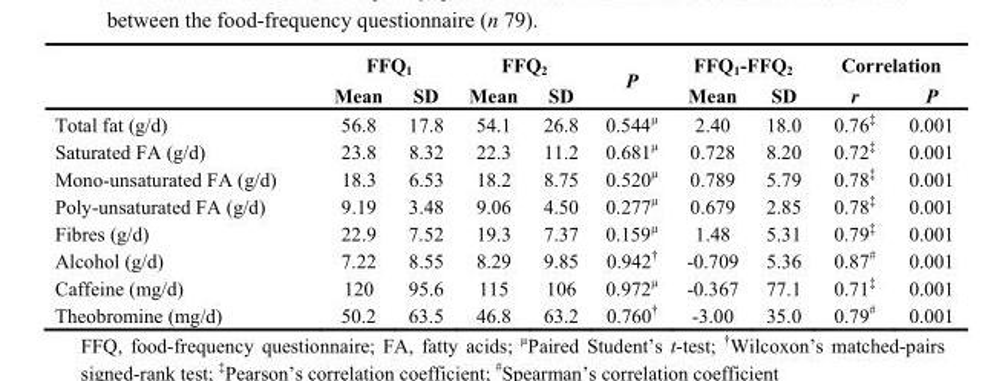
<table><thead><tr><td rowspan="2"></td><td colspan="2">FFQ<sub>1</sub></td><td colspan="2">FFQ<sub>2</sub></td><td rowspan="2">P</td><td colspan="2">FFQ<sub>1</sub>-FFQ<sub>2</sub></td><td colspan="2">Correlation</td></tr><tr><td>Mean</td><td>SD</td><td>Mean</td><td>SD</td><td>Mean</td><td>SD</td><td>r</td><td>P</td></tr></thead><tbody><tr><td>Total fat (g/d)</td><td>56.8</td><td>17.8</td><td>54.1</td><td>26.8</td><td>0.544µ</td><td>2.40</td><td>18.0</td><td>0.76‡</td><td>0.001</td></tr><tr><td>Saturated FA (g/d)</td><td>23.8</td><td>8.32</td><td>22.3</td><td>11.2</td><td>0.681µ</td><td>0.728</td><td>8.20</td><td>0.72‡</td><td>0.001</td></tr><tr><td>Mono-unsaturated FA (g/d)</td><td>18.3</td><td>6.53</td><td>18.2</td><td>8.75</td><td>0.520µ</td><td>0.789</td><td>5.79</td><td>0.78‡</td><td>0.001</td></tr><tr><td>Poly-unsaturated FA (g/d)</td><td>9.19</td><td>3.48</td><td>9.06</td><td>4.50</td><td>0.277µ</td><td>0.679</td><td>2.85</td><td>0.78‡</td><td>0.001</td></tr><tr><td>Fibres (g/d)</td><td>22.9</td><td>7.52</td><td>19.3</td><td>7.37</td><td>0.159µ</td><td>1.48</td><td>5.31</td><td>0.79‡</td><td>0.001</td></tr><tr><td>Alcohol (g/d)</td><td>7.22</td><td>8.55</td><td>8.29</td><td>9.85</td><td>0.942†</td><td>-0.709</td><td>5.36</td><td>0.87#</td><td>0.001</td></tr><tr><td>Caffeine (mg/d)</td><td>120</td><td>95.6</td><td>115</td><td>106</td><td>0.972µ</td><td>-0.367</td><td>77.1</td><td>0.71‡</td><td>0.001</td></tr><tr><td>Theobromine (mg/d)</td><td>50.2</td><td>63.5</td><td>46.8</td><td>63.2</td><td>0.760†</td><td>-3.00</td><td>35.0</td><td>0.79#</td><td>0.001</td></tr></tbody></table>